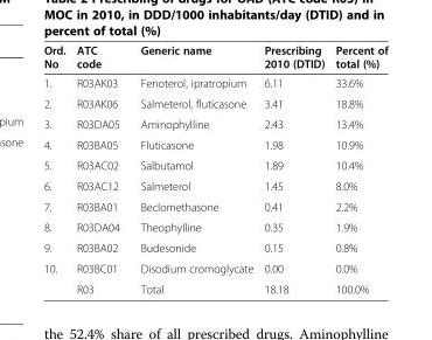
<table><thead><tr><td>Ord. No</td><td>ATC code</td><td>Generic name</td><td>Prescribing 2010 (DTID)</td><td>Percent of total (%)</td></tr></thead><tbody><tr><td>1.</td><td>R03AK03</td><td>Fenoterol, ipratropium</td><td>6.11</td><td>33.6%</td></tr><tr><td>2.</td><td>R03AK06</td><td>Salmeterol, fluticasone</td><td>3.41</td><td>18.8%</td></tr><tr><td>3.</td><td>R03DA05</td><td>Aminophylline</td><td>2.43</td><td>13.4%</td></tr><tr><td>4.</td><td>R03BA05</td><td>Fluticasone</td><td>1.98</td><td>10.9%</td></tr><tr><td>5.</td><td>R03AC02</td><td>Salbutamol</td><td>1.89</td><td>10.4%</td></tr><tr><td>6.</td><td>R03AC12</td><td>Salmeterol</td><td>1.45</td><td>8.0%</td></tr><tr><td>7.</td><td>R03BA01</td><td>Beclomethasone</td><td>0.41</td><td>2.2%</td></tr><tr><td>8.</td><td>R03DA04</td><td>Theophylline</td><td>0.35</td><td>1.9%</td></tr><tr><td>9.</td><td>R03BA02</td><td>Budesonide</td><td>0.15</td><td>0.8%</td></tr><tr><td rowspan="2">10.</td><td>R03BC01</td><td>Disodium cromoglycate</td><td>0.00</td><td>0.0%</td></tr><tr><td>R03</td><td>Total</td><td>18.18</td><td>100.0%</td></tr></tbody></table>